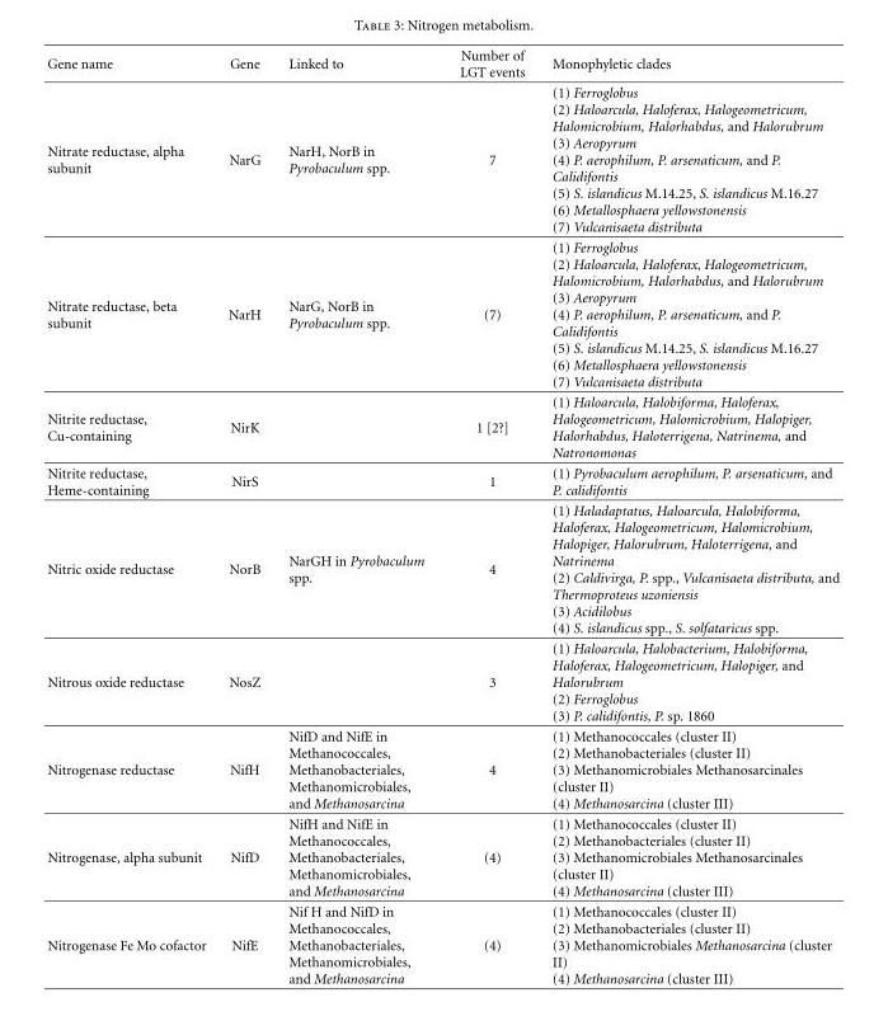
<table><thead><tr><td>Gene name</td><td>Gene</td><td>Linked to</td><td>Number of LGT events</td><td>Monophyletic clades</td></tr></thead><tbody><tr><td>Nitrate reductase, alpha subunit</td><td>NarG</td><td>NarH, NorB in Pyrobaculum spp.</td><td>7</td><td>(1) Ferroglobus (2) Haloarcula, Haloferax, Halogeometricum, Halomicrobium, Halorhabdus, and Halorubrum (3) Aeropyrum (4) P. aerophilum, P. arsenaticum, and P. Calidifontis (5) S. islandicus M.14.25, S. islandicus M.16.27 (6) Metallosphaera yellowstonensis (7) Vulcanisaeta distributa</td></tr><tr><td>Nitrate reductase, beta subunit</td><td>NarH</td><td>NarG, NorB in Pyrobaculum spp.</td><td>(7)</td><td>(1) Ferroglobus (2) Haloarcula, Haloferax, Halogeometricum, Halomicrobium, Halorhabdus, and Halorubrum (3) Aeropyrum (4) P. aerophilum, P. arsenaticum, and P. Calidifontis (5) S. islandicus M.14.25, S. islandicus M.16.27 (6) Metallosphaera yellowstonensis (7) Vulcanisaeta distributa</td></tr><tr><td>Nitrite reductase, Cu-containing</td><td>NirK</td><td></td><td>1 [2?]</td><td>(1) Haloarcula, Halobiforma, Haloferax, Halogeometricum, Halomicrobium, Halopiger, Halorhabdus, Haloterrigena, Natrinema, and Natronomonas</td></tr><tr><td>Nitrite reductase, Heme-containing</td><td>NirS</td><td></td><td>1</td><td>(1) Pyrobaculum aerophilum, P. arsenaticum, and P. calidifontis</td></tr><tr><td>Nitric oxide reductase</td><td>NorB</td><td>NarGH in Pyrobaculum spp.</td><td>4</td><td>(1) Haladaptatus, Haloarcula, Halobiforma, Haloferax, Halogeometricum, Halomicrobium, Halopiger, Halorubrum, Haloterrigena, and Natrinema (2) Caldivirga, P. spp., Vulcanisaeta distributa, and Thermoproteus uzoniensis (3) Acidilobus (4) S. islandicus spp., S. solfataricus spp.</td></tr><tr><td>Nitrous oxide reductase</td><td>NosZ</td><td></td><td>3</td><td>(1) Haloarcula, Halobacterium, Halobiforma, Haloferax, Halogeometricum, Halopiger, and Halorubrum (2) Ferroglobus (3) P. calidifontis, P. sp. 1860</td></tr><tr><td>Nitrogenase reductase</td><td>NifH</td><td>NifD and NifE in Methanococcales, Methanobacteriales, Methanomicrobiales, and Methanosarcina</td><td>4</td><td>(1) Methanococcales (cluster II) (2) Methanobacteriales (cluster II) (3) Methanomicrobiales Methanosarcinales (cluster II) (4) Methanosarcina (cluster III)</td></tr><tr><td>Nitrogenase, alpha subunit</td><td>NifD</td><td>NifH and NifE in Methanococcales, Methanobacteriales, Methanomicrobiales, and Methanosarcina</td><td>(4)</td><td>(1) Methanococcales (cluster II) (2) Methanobacteriales (cluster II) (3) Methanomicrobiales Methanosarcinales (cluster II) (4) Methanosarcina (cluster III)</td></tr><tr><td>Nitrogenase Fe Mo cofactor</td><td>NifE</td><td>Nif H and NifD in Methanococcales, Methanobacteriales, Methanomicrobiales, and Methanosarcina</td><td>(4)</td><td>(1) Methanococcales (cluster II) (2) Methanobacteriales (cluster II) (3) Methanomicrobiales Methanosarcina (cluster II) (4) Methanosarcina (cluster III)</td></tr></tbody></table>